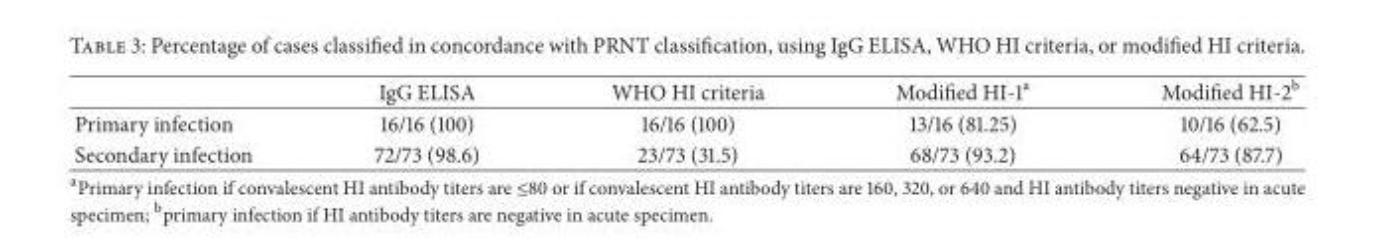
<table><thead><tr><td></td><td>IgG ELISA</td><td>WHO HI criteria</td><td>Modified HI-1<sup>a</sup></td><td>Modified HI-2<sup>b</sup></td></tr></thead><tbody><tr><td>Primary infection</td><td>16/16 (100)</td><td>16/16 (100)</td><td>13/16 (81.25)</td><td>10/16 (62.5)</td></tr><tr><td>Secondary infection</td><td>72/73 (98.6)</td><td>23/73 (31.5)</td><td>68/73 (93.2)</td><td>64/73 (87.7)</td></tr></tbody></table>